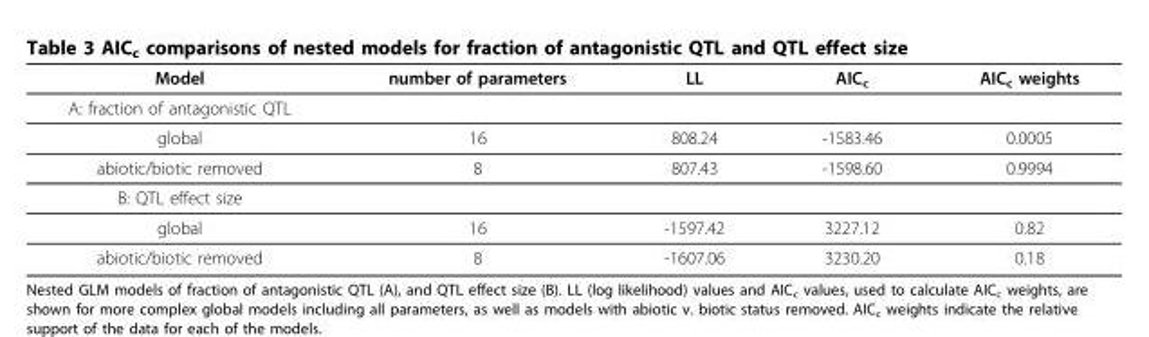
<table><thead><tr><td>Model</td><td>number of parameters</td><td>LL</td><td>AIC<sub>c</sub></td><td>AIC<sub>c</sub> weights</td></tr></thead><tbody><tr><td colspan="5">A: fraction of antagonistic QTL</td></tr><tr><td>global</td><td>16</td><td>808.24</td><td>-1583.46</td><td>0.0005</td></tr><tr><td>abiotic/biotic removed</td><td>8</td><td>807.43</td><td>-1598.60</td><td>0.9994</td></tr><tr><td colspan="5">B: QTL effect size</td></tr><tr><td>global</td><td>16</td><td>-1597.42</td><td>3227.12</td><td>0.82</td></tr><tr><td>abiotic/biotic removed</td><td>8</td><td>-1607.06</td><td>3230.20</td><td>0.18</td></tr></tbody></table>